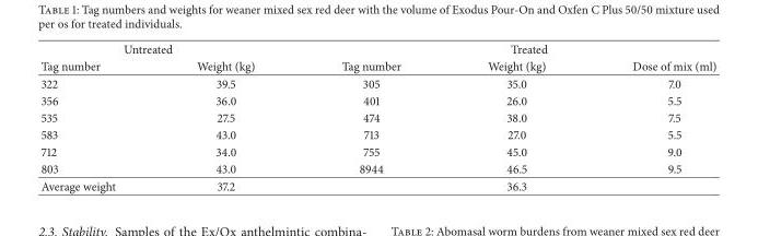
<table><thead><tr><td colspan="2">Untreated</td><td colspan="3">Treated</td></tr><tr><td>Tag number</td><td>Weight (kg)</td><td>Tag number</td><td>Weight (kg)</td><td>Dose of mix (ml)</td></tr></thead><tbody><tr><td>322</td><td>39.5</td><td>305</td><td>35.0</td><td>7.0</td></tr><tr><td>356</td><td>36.0</td><td>401</td><td>26.0</td><td>5.5</td></tr><tr><td>535</td><td>27.5</td><td>474</td><td>38.0</td><td>7.5</td></tr><tr><td>583</td><td>43.0</td><td>713</td><td>27.0</td><td>5.5</td></tr><tr><td>712</td><td>34.0</td><td>755</td><td>45.0</td><td>9.0</td></tr><tr><td>803</td><td>43.0</td><td>8944</td><td>46.5</td><td>9.5</td></tr><tr><td>Average weight</td><td>37.2</td><td></td><td>36.3</td><td></td></tr></tbody></table>